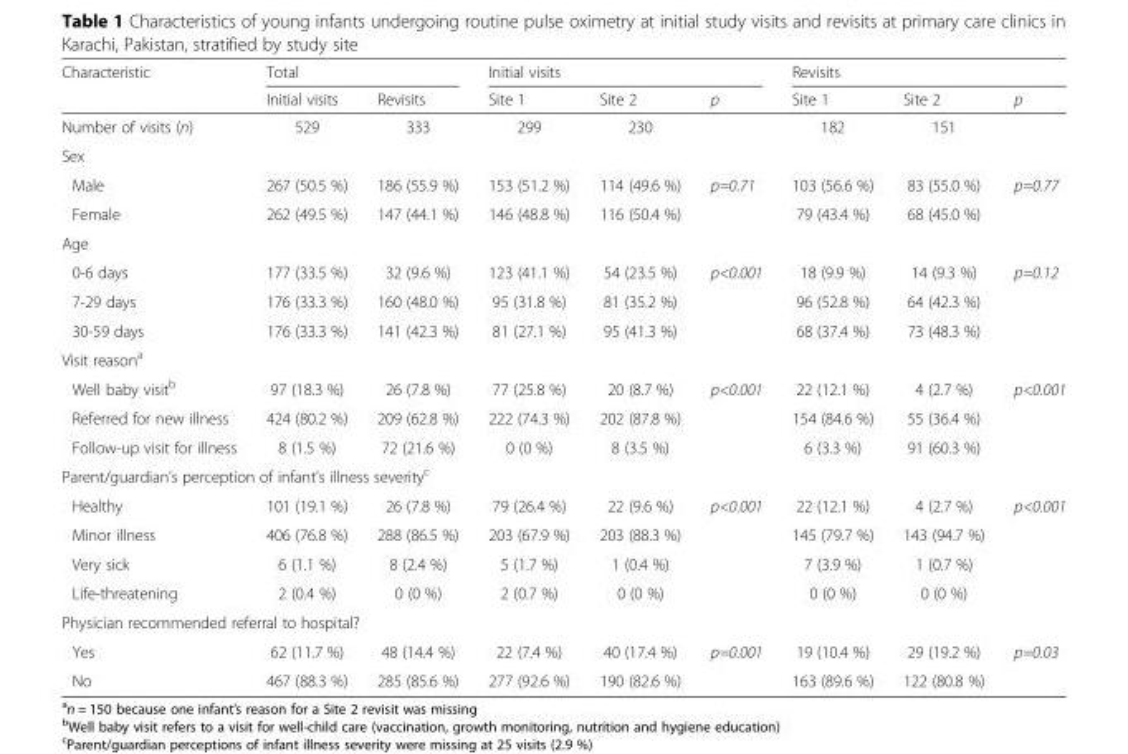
<table><thead><tr><td rowspan="2">Characteristic</td><td colspan="2">Total</td><td colspan="3">Initial visits</td><td colspan="3">Revisits</td></tr><tr><td>Initial visits</td><td>Revisits</td><td>Site 1</td><td>Site 2</td><td>p</td><td>Site 1</td><td>Site 2</td><td>p</td></tr></thead><tbody><tr><td>Number of visits (n)</td><td>529</td><td>333</td><td>299</td><td>230</td><td></td><td>182</td><td>151</td><td></td></tr><tr><td colspan="9">Sex</td></tr><tr><td>Male</td><td>267 (50.5 %)</td><td>186 (55.9 %)</td><td>153 (51.2 %)</td><td>114 (49.6 %)</td><td rowspan="2">p=0.71</td><td>103 (56.6 %)</td><td>83 (55.0 %)</td><td rowspan="2">p=0.77</td></tr><tr><td>Female</td><td>262 (49.5 %)</td><td>147 (44.1 %)</td><td>146 (48.8 %)</td><td>116 (50.4 %)</td><td>79 (43.4 %)</td><td>68 (45.0 %)</td></tr><tr><td colspan="9">Age</td></tr><tr><td>0-6 days</td><td>177 (33.5 %)</td><td>32 (9.6 %)</td><td>123 (41.1 %)</td><td>54 (23.5 %)</td><td rowspan="3">p&lt;0.001</td><td>18 (9.9 %)</td><td>14 (9.3 %)</td><td rowspan="3">p=0.12</td></tr><tr><td>7-29 days</td><td>176 (33.3 %)</td><td>160 (48.0 %)</td><td>95 (31.8 %)</td><td>81 (35.2 %)</td><td>96 (52.8 %)</td><td>64 (42.3 %)</td></tr><tr><td>30-59 days</td><td>176 (33.3 %)</td><td>141 (42.3 %)</td><td>81 (27.1 %)</td><td>95 (41.3 %)</td><td>68 (37.4 %)</td><td>73 (48.3 %)</td></tr><tr><td colspan="9">Visit reason<sup>a</sup></td></tr><tr><td>Well baby visit<sup>b</sup></td><td>97 (18.3 %)</td><td>26 (7.8 %)</td><td>77 (25.8 %)</td><td>20 (8.7 %)</td><td rowspan="3">p&lt;0.001</td><td>22 (12.1 %)</td><td>4 (2.7 %)</td><td rowspan="3">p&lt;0.001</td></tr><tr><td>Referred for new illness</td><td>424 (80.2 %)</td><td>209 (62.8 %)</td><td>222 (74.3 %)</td><td>202 (87.8 %)</td><td>154 (84.6 %)</td><td>55 (36.4 %)</td></tr><tr><td>Follow-up visit for illness</td><td>8 (1.5 %)</td><td>72 (21.6 %)</td><td>0 (0 %)</td><td>8 (3.5 %)</td><td>6 (3.3 %)</td><td>91 (60.3 %)</td></tr><tr><td colspan="9">Parent/guardian’s perception of infant’s illness severity<sup>c</sup></td></tr><tr><td>Healthy</td><td>101 (19.1 %)</td><td>26 (7.8 %)</td><td>79 (26.4 %)</td><td>22 (9.6 %)</td><td rowspan="4">p&lt;0.001</td><td>22 (12.1 %)</td><td>4 (2.7 %)</td><td rowspan="4">p&lt;0.001</td></tr><tr><td>Minor illness</td><td>406 (76.8 %)</td><td>288 (86.5 %)</td><td>203 (67.9 %)</td><td>203 (88.3 %)</td><td>145 (79.7 %)</td><td>143 (94.7 %)</td></tr><tr><td>Very sick</td><td>6 (1.1 %)</td><td>8 (2.4 %)</td><td>5 (1.7 %)</td><td>1 (0.4 %)</td><td>7 (3.9 %)</td><td>1 (0.7 %)</td></tr><tr><td>Life-threatening</td><td>2 (0.4 %)</td><td>0 (0 %)</td><td>2 (0.7 %)</td><td>0 (0 %)</td><td>0 (0 %)</td><td>0 (0 %)</td></tr><tr><td colspan="9">Physician recommended referral to hospital?</td></tr><tr><td>Yes</td><td>62 (11.7 %)</td><td>48 (14.4 %)</td><td>22 (7.4 %)</td><td>40 (17.4 %)</td><td rowspan="2">p=0.001</td><td>19 (10.4 %)</td><td>29 (19.2 %)</td><td rowspan="2">p=0.03</td></tr><tr><td>No</td><td>467 (88.3 %)</td><td>285 (85.6 %)</td><td>277 (92.6 %)</td><td>190 (82.6 %)</td><td>163 (89.6 %)</td><td>122 (80.8 %)</td></tr></tbody></table>